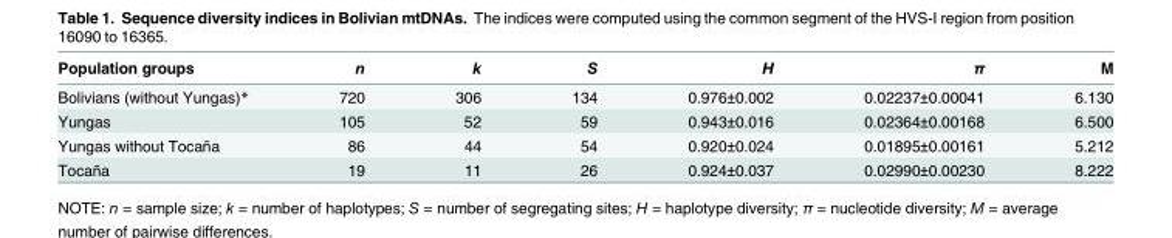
<table><thead><tr><td>Population groups</td><td>n</td><td>k</td><td>S</td><td>H</td><td>π</td><td>M</td></tr></thead><tbody><tr><td>Bolivians (without Yungas)*</td><td>720</td><td>306</td><td>134</td><td>0.976±0.002</td><td>0.02237±0.00041</td><td>6.130</td></tr><tr><td>Yungas</td><td>105</td><td>52</td><td>59</td><td>0.943±0.016</td><td>0.02364±0.00168</td><td>6.500</td></tr><tr><td>Yungas without Tocaña</td><td>86</td><td>44</td><td>54</td><td>0.920±0.024</td><td>0.01895±0.00161</td><td>5.212</td></tr><tr><td>Tocaña</td><td>19</td><td>11</td><td>26</td><td>0.924±0.037</td><td>0.02990±0.00230</td><td>8.222</td></tr></tbody></table>